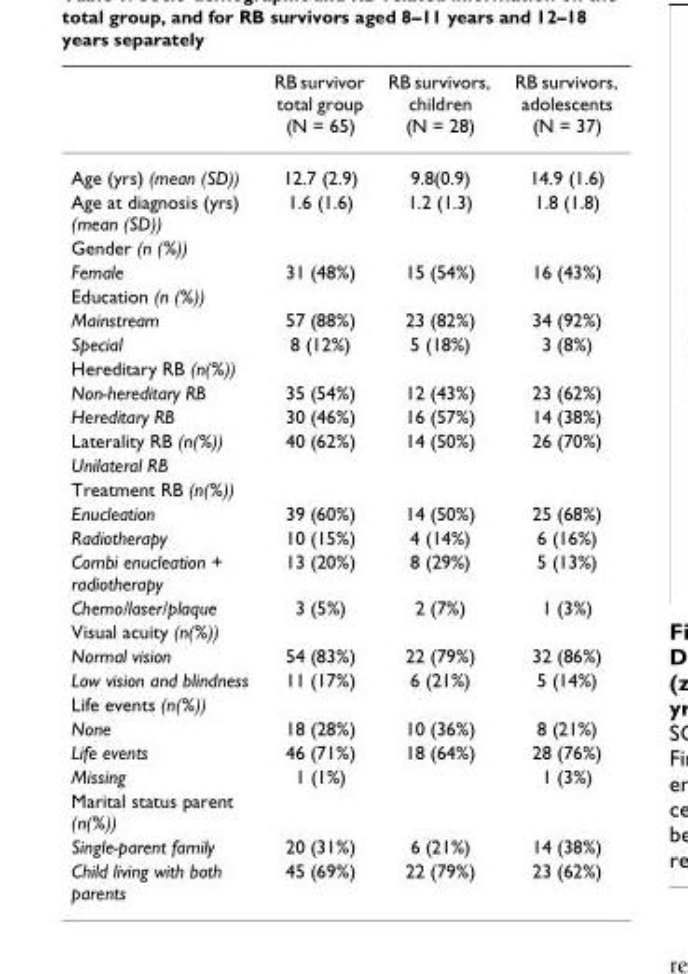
<table><thead><tr><td></td><td>RB survivor total group (N = 65)</td><td>RB survivors, children (N = 28)</td><td>RB survivors, adolescents (N = 37)</td></tr></thead><tbody><tr><td>Age (yrs) (mean (SD))</td><td>12.7 (2.9)</td><td>9.8(0.9)</td><td>14.9 (1.6)</td></tr><tr><td>Age at diagnosis (yrs) (mean (SD))</td><td>1.6 (1.6)</td><td>1.2 (1.3)</td><td>1.8 (1.8)</td></tr><tr><td colspan="4">Gender (n (%))</td></tr><tr><td>Female</td><td>31 (48%)</td><td>15 (54%)</td><td>16 (43%)</td></tr><tr><td colspan="4">Education (n (%))</td></tr><tr><td>Mainstream</td><td>57 (88%)</td><td>23 (82%)</td><td>34 (92%)</td></tr><tr><td>Special</td><td>8 (12%)</td><td>5 (18%)</td><td>3 (8%)</td></tr><tr><td colspan="4">Hereditary RB (n(%))</td></tr><tr><td>Non-hereditary RB</td><td>35 (54%)</td><td>12 (43%)</td><td>23 (62%)</td></tr><tr><td>Hereditary RB</td><td>30 (46%)</td><td>16 (57%)</td><td>14 (38%)</td></tr><tr><td>Laterality RB (n(%))</td><td>40 (62%)</td><td>14 (50%)</td><td>26 (70%)</td></tr><tr><td colspan="4">Unilateral RB</td></tr><tr><td colspan="4">Treatment RB (n(%))</td></tr><tr><td>Enucleation</td><td>39 (60%)</td><td>14 (50%)</td><td>25 (68%)</td></tr><tr><td>Radiotherapy</td><td>10 (15%)</td><td>4 (14%)</td><td>6 (16%)</td></tr><tr><td>Combi enucleation + radiotherapy</td><td>13 (20%)</td><td>8 (29%)</td><td>5 (13%)</td></tr><tr><td>Chemo/laser/plaque</td><td>3 (5%)</td><td>2 (7%)</td><td>1 (3%)</td></tr><tr><td colspan="4">Visual acuity (n(%))</td></tr><tr><td>Normal vision</td><td>54 (83%)</td><td>22 (79%)</td><td>32 (86%)</td></tr><tr><td>Low vision and blindness</td><td>11 (17%)</td><td>6 (21%)</td><td>5 (14%)</td></tr><tr><td colspan="4">Life events (n(%))</td></tr><tr><td>None</td><td>18 (28%)</td><td>10 (36%)</td><td>8 (21%)</td></tr><tr><td>Life events</td><td>46 (71%)</td><td>18 (64%)</td><td>28 (76%)</td></tr><tr><td>Missing</td><td>1 (1%)</td><td></td><td>1 (3%)</td></tr><tr><td colspan="4">Marital status parent (n(%))</td></tr><tr><td>Single-parent family</td><td>20 (31%)</td><td>6 (21%)</td><td>14 (38%)</td></tr><tr><td>Child living with both parents</td><td>45 (69%)</td><td>22 (79%)</td><td>23 (62%)</td></tr></tbody></table>